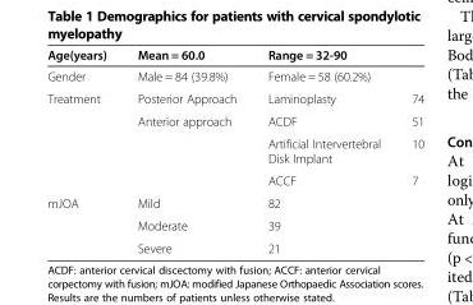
<table><thead><tr><td>Age(years)</td><td>Mean = 60.0</td><td>Range = 32-90</td><td></td></tr></thead><tbody><tr><td>Gender</td><td>Male = 84 (39.8%)</td><td>Female = 58 (60.2%)</td><td></td></tr><tr><td rowspan="4">Treatment</td><td>Posterior Approach</td><td>Laminoplasty</td><td>74</td></tr><tr><td>Anterior approach</td><td>ACDF</td><td>51</td></tr><tr><td></td><td>Artificial Intervertebral Disk Implant</td><td>10</td></tr><tr><td></td><td>ACCF</td><td>7</td></tr><tr><td rowspan="3">mJOA</td><td>Mild</td><td colspan="2">82</td></tr><tr><td>Moderate</td><td colspan="2">39</td></tr><tr><td>Severe</td><td colspan="2">21</td></tr></tbody></table>